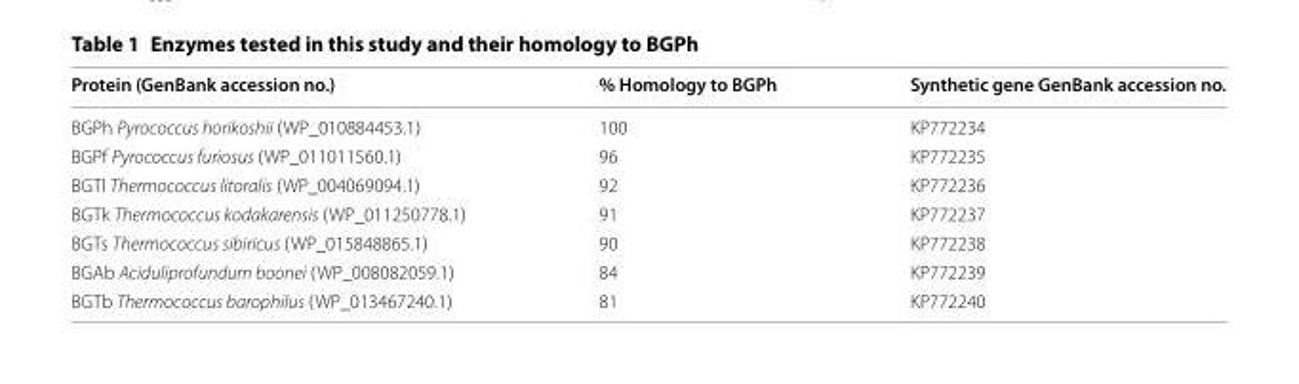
<table><thead><tr><td>Protein (GenBank accession no.)</td><td>% Homology to BGPh</td><td>Synthetic gene GenBank accession no.</td></tr></thead><tbody><tr><td>BGPh Pyrococcus horikoshii (WP_010884453.1)</td><td>100</td><td>KP772234</td></tr><tr><td>BGPf Pyrococcus furiosus (WP_011011560.1)</td><td>96</td><td>KP772235</td></tr><tr><td>BGTl Thermococcus litoralis (WP_004069094.1)</td><td>92</td><td>KP772236</td></tr><tr><td>BGTk Thermococcus kodakarensis (WP_011250778.1)</td><td>91</td><td>KP772237</td></tr><tr><td>BGTs Thermococcus sibiricus (WP_015848865.1)</td><td>90</td><td>KP772238</td></tr><tr><td>BGAb Aciduliprofundum boonei (WP_008082059.1)</td><td>84</td><td>KP772239</td></tr><tr><td>BGTb Thermococcus barophilus (WP_013467240.1)</td><td>81</td><td>KP772240</td></tr></tbody></table>